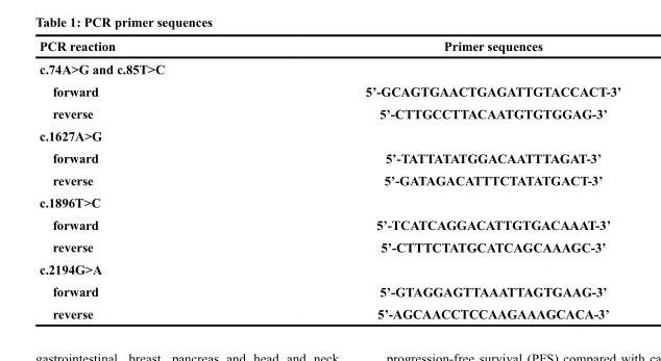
<table><thead><tr><td>PCR reaction</td><td>Primer sequences</td></tr></thead><tbody><tr><td colspan="2">c.74A&gt;G and c.85T&gt;C</td></tr><tr><td>forward</td><td>5’-GCAGTGAACTGAGATTGTACCACT-3’</td></tr><tr><td>reverse</td><td>5’-CTTGCCTTACAATGTGTGGAG-3’</td></tr><tr><td colspan="2">c.1627A&gt;G</td></tr><tr><td>forward</td><td>5’-TATTATATGGACAATTTAGAT-3’</td></tr><tr><td>reverse</td><td>5’-GATAGACATTTCTATATGACT-3’</td></tr><tr><td colspan="2">c.1896T&gt;C</td></tr><tr><td>forward</td><td>5’-TCATCAGGACATTGTGACAAAT-3’</td></tr><tr><td>reverse</td><td>5’-CTTTCTATGCATCAGCAAAGC-3’</td></tr><tr><td colspan="2">c.2194G&gt;A</td></tr><tr><td>forward</td><td>5’-GTAGGAGTTAAATTAGTGAAG-3’</td></tr><tr><td>reverse</td><td>5’-AGCAACCTCCAAGAAAGCACA-3’</td></tr></tbody></table>